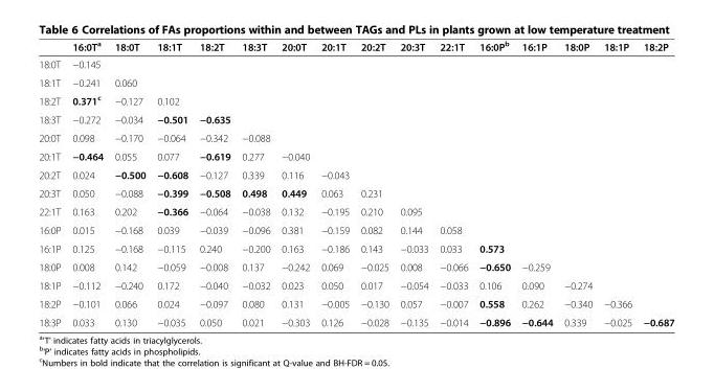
<table><thead><tr><td></td><td>16:0T<sup>a</sup></td><td>18:0T</td><td>18:1T</td><td>18:2T</td><td>18:3T</td><td>20:0T</td><td>20:1T</td><td>20:2T</td><td>20:3T</td><td>22:1T</td><td>16:0P<sup>b</sup></td><td>16:1P</td><td>18:0P</td><td>18:1P</td><td>18:2P</td></tr></thead><tbody><tr><td>18:0T</td><td>−0.145</td><td></td><td></td><td></td><td></td><td></td><td></td><td></td><td></td><td></td><td></td><td></td><td></td><td></td><td></td></tr><tr><td>18:1T</td><td>−0.241</td><td>0.060</td><td></td><td></td><td></td><td></td><td></td><td></td><td></td><td></td><td></td><td></td><td></td><td></td><td></td></tr><tr><td>18:2T</td><td>0.371<sup>c</sup></td><td>−0.127</td><td>0.102</td><td></td><td></td><td></td><td></td><td></td><td></td><td></td><td></td><td></td><td></td><td></td><td></td></tr><tr><td>18:3T</td><td>−0.272</td><td>−0.034</td><td>−0.501</td><td>−0.635</td><td></td><td></td><td></td><td></td><td></td><td></td><td></td><td></td><td></td><td></td><td></td></tr><tr><td>20:0T</td><td>0.098</td><td>−0.170</td><td>−0.064</td><td>−0.342</td><td>−0.088</td><td></td><td></td><td></td><td></td><td></td><td></td><td></td><td></td><td></td><td></td></tr><tr><td>20:1T</td><td>−0.464</td><td>0.055</td><td>0.077</td><td>−0.619</td><td>0.277</td><td>−0.040</td><td></td><td></td><td></td><td></td><td></td><td></td><td></td><td></td><td></td></tr><tr><td>20:2T</td><td>0.024</td><td>−0.500</td><td>−0.608</td><td>−0.127</td><td>0.339</td><td>0.116</td><td>−0.043</td><td></td><td></td><td></td><td></td><td></td><td></td><td></td><td></td></tr><tr><td>20:3T</td><td>0.050</td><td>−0.088</td><td>−0.399</td><td>−0.508</td><td>0.498</td><td>0.449</td><td>0.063</td><td>0.231</td><td></td><td></td><td></td><td></td><td></td><td></td><td></td></tr><tr><td>22:1T</td><td>0.163</td><td>0.202</td><td>−0.366</td><td>−0.064</td><td>−0.038</td><td>0.132</td><td>−0.195</td><td>0.210</td><td>0.095</td><td></td><td></td><td></td><td></td><td></td><td></td></tr><tr><td>16:0P</td><td>0.015</td><td>−0.168</td><td>0.039</td><td>−0.039</td><td>−0.096</td><td>0.381</td><td>−0.159</td><td>0.082</td><td>0.144</td><td>0.058</td><td></td><td></td><td></td><td></td><td></td></tr><tr><td>16:1P</td><td>0.125</td><td>−0.168</td><td>−0.115</td><td>0.240</td><td>−0.200</td><td>0.163</td><td>−0.186</td><td>0.143</td><td>−0.033</td><td>0.033</td><td>0.573</td><td></td><td></td><td></td><td></td></tr><tr><td>18:0P</td><td>0.008</td><td>0.142</td><td>−0.059</td><td>−0.008</td><td>0.137</td><td>−0.242</td><td>0.069</td><td>−0.025</td><td>0.008</td><td>−0.066</td><td>−0.650</td><td>−0.259</td><td></td><td></td><td></td></tr><tr><td>18:1P</td><td>−0.112</td><td>−0.240</td><td>0.172</td><td>−0.040</td><td>−0.032</td><td>0.023</td><td>0.050</td><td>0.017</td><td>−0.054</td><td>−0.033</td><td>0.106</td><td>0.090</td><td>−0.274</td><td></td><td></td></tr><tr><td>18:2P</td><td>−0.101</td><td>0.066</td><td>0.024</td><td>−0.097</td><td>0.080</td><td>0.131</td><td>−0.005</td><td>−0.130</td><td>0.057</td><td>−0.007</td><td>0.558</td><td>0.262</td><td>−0.340</td><td>−0.366</td><td></td></tr><tr><td>18:3P</td><td>0.033</td><td>0.130</td><td>−0.035</td><td>0.050</td><td>0.021</td><td>−0.303</td><td>0.126</td><td>−0.028</td><td>−0.135</td><td>−0.014</td><td>−0.896</td><td>−0.644</td><td>0.339</td><td>−0.025</td><td>−0.687</td></tr></tbody></table>